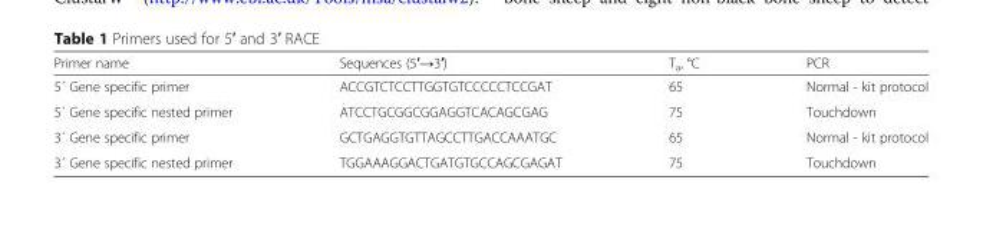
<table><thead><tr><td>Primer name</td><td>Sequences (5′→3′)</td><td>T<sub>a</sub>, °C</td><td>PCR</td></tr></thead><tbody><tr><td>5´ Gene specific primer</td><td>ACCGTCTCCTTGGTGTCCCCCTCCGAT</td><td>65</td><td>Normal - kit protocol</td></tr><tr><td>5´ Gene specific nested primer</td><td>ATCCTGCGGCGGAGGTCACAGCGAG</td><td>75</td><td>Touchdown</td></tr><tr><td>3´ Gene specific primer</td><td>GCTGAGGTGTTAGCCTTGACCAAATGC</td><td>65</td><td>Normal - kit protocol</td></tr><tr><td>3´ Gene specific nested primer</td><td>TGGAAAGGACTGATGTGCCAGCGAGAT</td><td>75</td><td>Touchdown</td></tr></tbody></table>